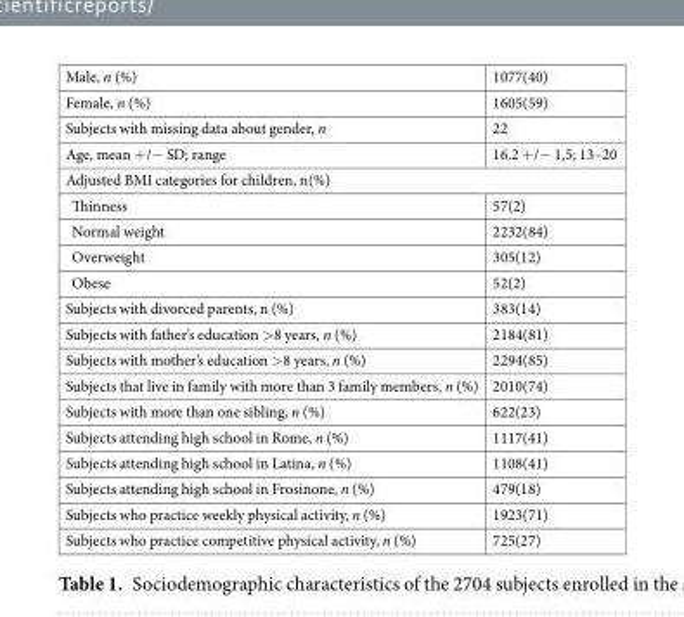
<table><tbody><tr><td>Male, n (%)</td><td>1077(40)</td></tr><tr><td>Female, n (%)</td><td>1605(59)</td></tr><tr><td>Subjects with missing data about gender, n</td><td>22</td></tr><tr><td>Age, mean +/− SD; range</td><td>16.2 +/− 1,5; 13–20</td></tr><tr><td colspan="2">Adjusted BMI categories for children, n(%)</td></tr><tr><td>Thinness</td><td>57(2)</td></tr><tr><td>Normal weight</td><td>2232(84)</td></tr><tr><td>Overweight</td><td>305(12)</td></tr><tr><td>Obese</td><td>52(2)</td></tr><tr><td>Subjects with divorced parents, n (%)</td><td>383(14)</td></tr><tr><td>Subjects with father’s education &gt;8 years, n (%)</td><td>2184(81)</td></tr><tr><td>Subjects with mother’s education &gt;8 years, n (%)</td><td>2294(85)</td></tr><tr><td>Subjects that live in family with more than 3 family members, n (%)</td><td>2010(74)</td></tr><tr><td>Subjects with more than one sibling, n (%)</td><td>622(23)</td></tr><tr><td>Subjects attending high school in Rome, n (%)</td><td>1117(41)</td></tr><tr><td>Subjects attending high school in Latina, n (%)</td><td>1108(41)</td></tr><tr><td>Subjects attending high school in Frosinone, n (%)</td><td>479(18)</td></tr><tr><td>Subjects who practice weekly physical activity, n (%)</td><td>1923(71)</td></tr><tr><td>Subjects who practice competitive physical activity, n (%)</td><td>725(27)</td></tr></tbody></table>